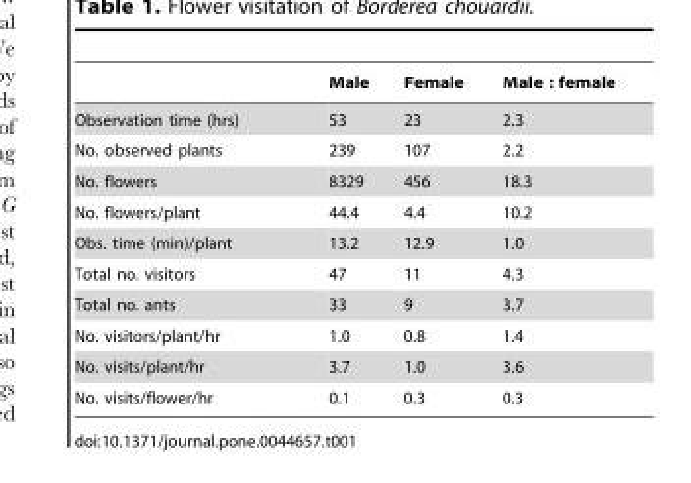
<table><thead><tr><td></td><td>Male</td><td>Female</td><td>Male : female</td></tr></thead><tbody><tr><td>Observation time (hrs)</td><td>53</td><td>23</td><td>2.3</td></tr><tr><td>No. observed plants</td><td>239</td><td>107</td><td>2.2</td></tr><tr><td>No. flowers</td><td>8329</td><td>456</td><td>18.3</td></tr><tr><td>No. flowers/plant</td><td>44.4</td><td>4.4</td><td>10.2</td></tr><tr><td>Obs. time (min)/plant</td><td>13.2</td><td>12.9</td><td>1.0</td></tr><tr><td>Total no. visitors</td><td>47</td><td>11</td><td>4.3</td></tr><tr><td>Total no. ants</td><td>33</td><td>9</td><td>3.7</td></tr><tr><td>No. visitors/plant/hr</td><td>1.0</td><td>0.8</td><td>1.4</td></tr><tr><td>No. visits/plant/hr</td><td>3.7</td><td>1.0</td><td>3.6</td></tr><tr><td>No. visits/flower/hr</td><td>0.1</td><td>0.3</td><td>0.3</td></tr></tbody></table>